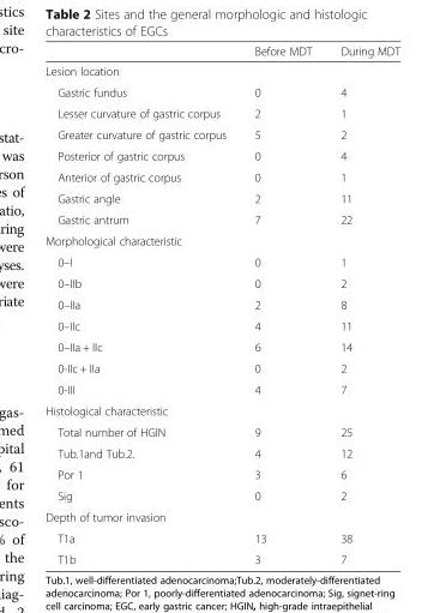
<table><thead><tr><td></td><td>Before MDT</td><td>During MDT</td></tr></thead><tbody><tr><td colspan="3">Lesion location</td></tr><tr><td>Gastric fundus</td><td>0</td><td>4</td></tr><tr><td>Lesser curvature of gastric corpus</td><td>2</td><td>1</td></tr><tr><td>Greater curvature of gastric corpus</td><td>5</td><td>2</td></tr><tr><td>Posterior of gastric corpus</td><td>0</td><td>4</td></tr><tr><td>Anterior of gastric corpus</td><td>0</td><td>1</td></tr><tr><td>Gastric angle</td><td>2</td><td>11</td></tr><tr><td>Gastric antrum</td><td>7</td><td>22</td></tr><tr><td colspan="3">Morphological characteristic</td></tr><tr><td>0–I</td><td>0</td><td>1</td></tr><tr><td>0–IIb</td><td>0</td><td>2</td></tr><tr><td>0–IIa</td><td>2</td><td>8</td></tr><tr><td>0–IIc</td><td>4</td><td>11</td></tr><tr><td>0–IIa + IIc</td><td>6</td><td>14</td></tr><tr><td>0-IIc + IIa</td><td>0</td><td>2</td></tr><tr><td>0-III</td><td>4</td><td>7</td></tr><tr><td colspan="3">Histological characteristic</td></tr><tr><td>Total number of HGIN</td><td>9</td><td>25</td></tr><tr><td>Tub.1and Tub.2.</td><td>4</td><td>12</td></tr><tr><td>Por 1</td><td>3</td><td>6</td></tr><tr><td>Sig</td><td>0</td><td>2</td></tr><tr><td colspan="3">Depth of tumor invasion</td></tr><tr><td>T1a</td><td>13</td><td>38</td></tr><tr><td>T1b</td><td>3</td><td>7</td></tr></tbody></table>